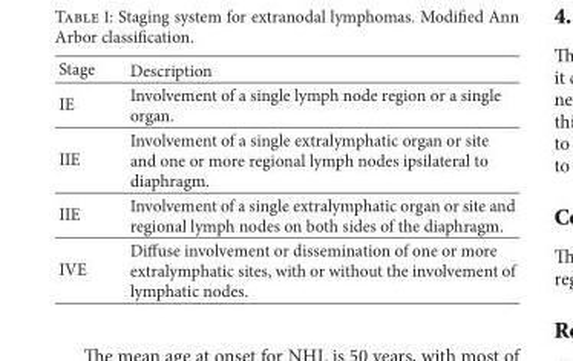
<table><thead><tr><td>Stage</td><td>Description</td></tr></thead><tbody><tr><td>IE</td><td>Involvement of a single lymph node region or a single organ.</td></tr><tr><td>IIE</td><td>Involvement of a single extralymphatic organ or site and one or more regional lymph nodes ipsilateral to diaphragm.</td></tr><tr><td>IIE</td><td>Involvement of a single extralymphatic organ or site and regional lymph nodes on both sides of the diaphragm.</td></tr><tr><td>IVE</td><td>Diffuse involvement or dissemination of one or more extralymphatic sites, with or without the involvement of lymphatic nodes.</td></tr></tbody></table>